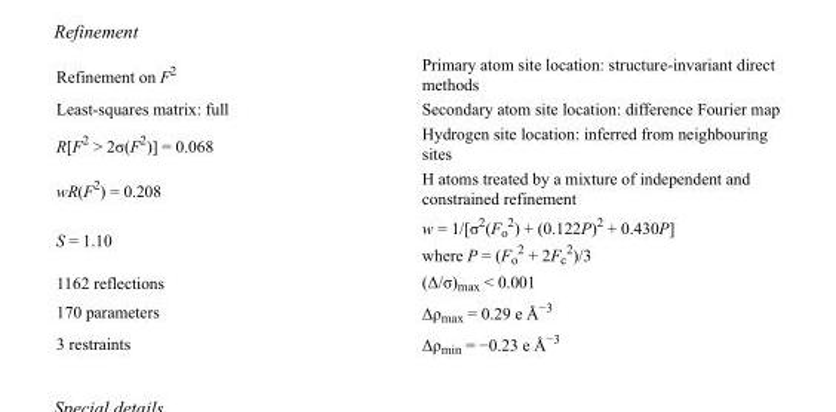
<table><tbody><tr><td>Refinement on F<sup>2</sup></td><td>Primary atom site location: structure-invariant direct methods</td></tr><tr><td>Least-squares matrix: full</td><td>Secondary atom site location: difference Fourier map</td></tr><tr><td>R[F<sup>2</sup> &gt; 2σ(F<sup>2</sup>)] = 0.068</td><td>Hydrogen site location: inferred from neighbouring sites</td></tr><tr><td>wR(F<sup>2</sup>) = 0.208</td><td>H atoms treated by a mixture of independent and constrained refinement</td></tr><tr><td>S = 1.10</td><td>w = 1/[σ<sup>2</sup>(F<sub>o</sub> <sup>2</sup>) + (0.122P)<sup>2</sup> + 0.430P] where P = (F<sub>o</sub> <sup>2</sup> + 2F<sub>c</sub> <sup>2</sup>)/3</td></tr><tr><td>1162 reflections</td><td>(Δ/σ)<sub>max</sub> &lt; 0.001</td></tr><tr><td>170 parameters</td><td>Δρ<sub>max</sub> = 0.29 e Å<sup>−3</sup></td></tr><tr><td>3 restraints</td><td>Δρ<sub>min</sub> = −0.23 e Å<sup>−3</sup></td></tr></tbody></table>